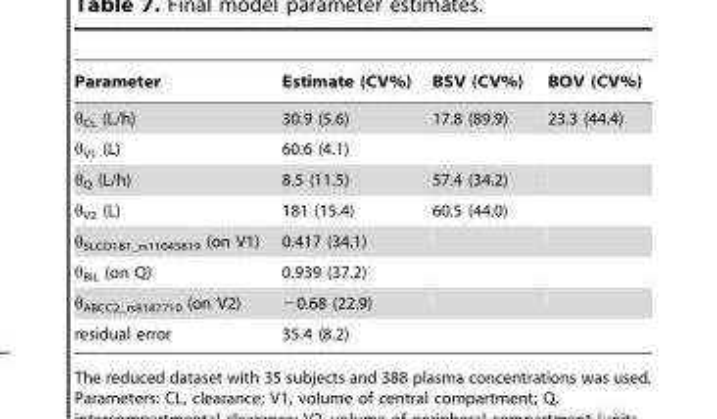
<table><thead><tr><td>Parameter</td><td>Estimate (CV%)</td><td>BSV (CV%)</td><td>BOV (CV%)</td></tr></thead><tbody><tr><td>θ<sub>CL</sub> (L/h)</td><td>30.9 (5.6)</td><td>17.8 (89.9)</td><td>23.3 (44.4)</td></tr><tr><td>θ<sub>V1</sub> (L)</td><td>60.6 (4.1)</td><td></td><td></td></tr><tr><td>θ<sub>Q</sub> (L/h)</td><td>8.5 (11.5)</td><td>57.4 (34.2)</td><td></td></tr><tr><td>θ<sub>V2</sub> (L)</td><td>181 (15.4)</td><td>60.5 (44.0)</td><td></td></tr><tr><td>θ<sub>SLCO1B1_rs11045819</sub> (on V1)</td><td>0.417 (34.1)</td><td></td><td></td></tr><tr><td>θ<sub>BIL</sub> (on Q)</td><td>0.939 (37.2)</td><td></td><td></td></tr><tr><td>θ<sub>ABCC2_rs8187710</sub> (on V2)</td><td>−0.68 (22.9)</td><td></td><td></td></tr><tr><td>residual error</td><td>35.4 (8.2)</td><td></td><td></td></tr></tbody></table>